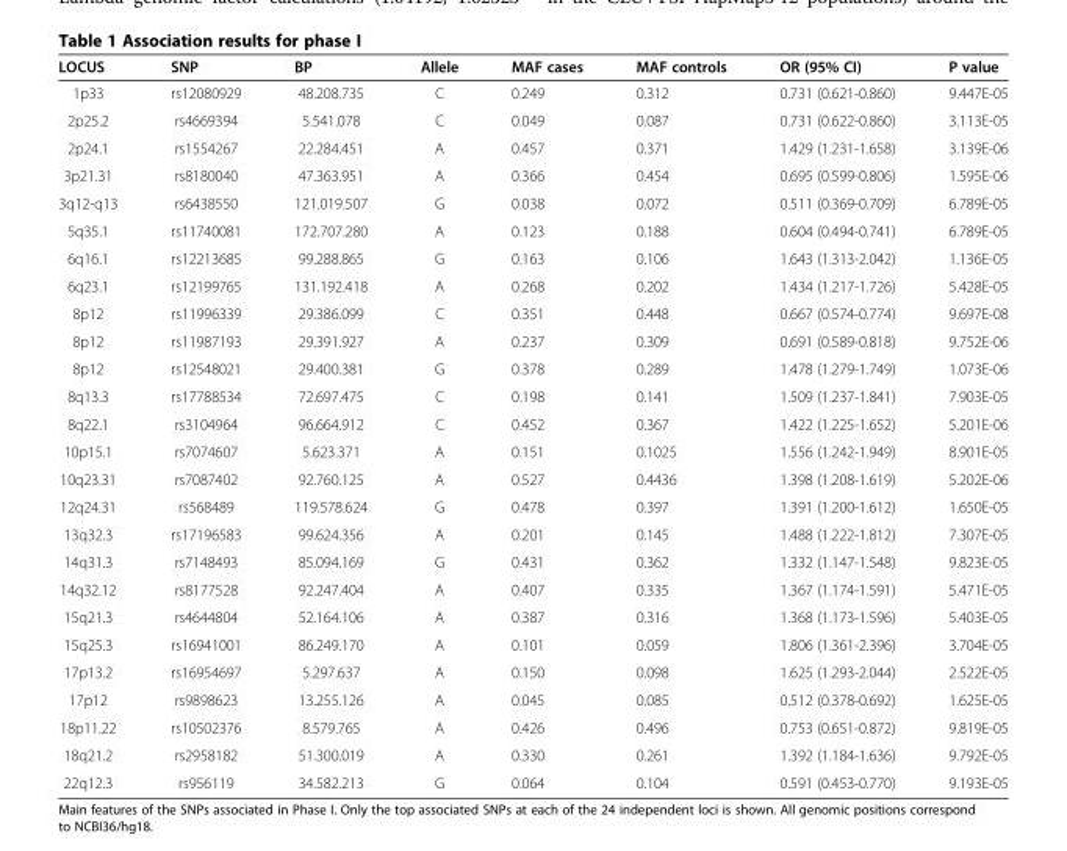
<table><thead><tr><td>LOCUS</td><td>SNP</td><td>BP</td><td>Allele</td><td>MAF cases</td><td>MAF controls</td><td>OR (95% CI)</td><td>P value</td></tr></thead><tbody><tr><td>1p33</td><td>rs12080929</td><td>48.208.735</td><td>C</td><td>0.249</td><td>0.312</td><td>0.731 (0.621-0.860)</td><td>9.447E-05</td></tr><tr><td>2p25.2</td><td>rs4669394</td><td>5.541.078</td><td>C</td><td>0.049</td><td>0.087</td><td>0.731 (0.622-0.860)</td><td>3.113E-05</td></tr><tr><td>2p24.1</td><td>rs1554267</td><td>22.284.451</td><td>A</td><td>0.457</td><td>0.371</td><td>1.429 (1.231-1.658)</td><td>3.139E-06</td></tr><tr><td>3p21.31</td><td>rs8180040</td><td>47.363.951</td><td>A</td><td>0.366</td><td>0.454</td><td>0.695 (0.599-0.806)</td><td>1.595E-06</td></tr><tr><td>3q12-q13</td><td>rs6438550</td><td>121.019.507</td><td>G</td><td>0.038</td><td>0.072</td><td>0.511 (0.369-0.709)</td><td>6.789E-05</td></tr><tr><td>5q35.1</td><td>rs11740081</td><td>172.707.280</td><td>A</td><td>0.123</td><td>0.188</td><td>0.604 (0.494-0.741)</td><td>6.789E-05</td></tr><tr><td>6q16.1</td><td>rs12213685</td><td>99.288.865</td><td>G</td><td>0.163</td><td>0.106</td><td>1.643 (1.313-2.042)</td><td>1.136E-05</td></tr><tr><td>6q23.1</td><td>rs12199765</td><td>131.192.418</td><td>A</td><td>0.268</td><td>0.202</td><td>1.434 (1.217-1.726)</td><td>5.428E-05</td></tr><tr><td>8p12</td><td>rs11996339</td><td>29.386.099</td><td>C</td><td>0.351</td><td>0.448</td><td>0.667 (0.574-0.774)</td><td>9.697E-08</td></tr><tr><td>8p12</td><td>rs11987193</td><td>29.391.927</td><td>A</td><td>0.237</td><td>0.309</td><td>0.691 (0.589-0.818)</td><td>9.752E-06</td></tr><tr><td>8p12</td><td>rs12548021</td><td>29.400.381</td><td>G</td><td>0.378</td><td>0.289</td><td>1.478 (1.279-1.749)</td><td>1.073E-06</td></tr><tr><td>8q13.3</td><td>rs17788534</td><td>72.697.475</td><td>C</td><td>0.198</td><td>0.141</td><td>1.509 (1.237-1.841)</td><td>7.903E-05</td></tr><tr><td>8q22.1</td><td>rs3104964</td><td>96.664.912</td><td>C</td><td>0.452</td><td>0.367</td><td>1.422 (1.225-1.652)</td><td>5.201E-06</td></tr><tr><td>10p15.1</td><td>rs7074607</td><td>5.623.371</td><td>A</td><td>0.151</td><td>0.1025</td><td>1.556 (1.242-1.949)</td><td>8.901E-05</td></tr><tr><td>10q23.31</td><td>rs7087402</td><td>92.760.125</td><td>A</td><td>0.527</td><td>0.4436</td><td>1.398 (1.208-1.619)</td><td>5.202E-06</td></tr><tr><td>12q24.31</td><td>rs568489</td><td>119.578.624</td><td>G</td><td>0.478</td><td>0.397</td><td>1.391 (1.200-1.612)</td><td>1.650E-05</td></tr><tr><td>13q32.3</td><td>rs17196583</td><td>99.624.356</td><td>A</td><td>0.201</td><td>0.145</td><td>1.488 (1.222-1.812)</td><td>7.307E-05</td></tr><tr><td>14q31.3</td><td>rs7148493</td><td>85.094.169</td><td>G</td><td>0.431</td><td>0.362</td><td>1.332 (1.147-1.548)</td><td>9.823E-05</td></tr><tr><td>14q32.12</td><td>rs8177528</td><td>92.247.404</td><td>A</td><td>0.407</td><td>0.335</td><td>1.367 (1.174-1.591)</td><td>5.471E-05</td></tr><tr><td>15q21.3</td><td>rs4644804</td><td>52.164.106</td><td>A</td><td>0.387</td><td>0.316</td><td>1.368 (1.173-1.596)</td><td>5.403E-05</td></tr><tr><td>15q25.3</td><td>rs16941001</td><td>86.249.170</td><td>A</td><td>0.101</td><td>0.059</td><td>1.806 (1.361-2.396)</td><td>3.704E-05</td></tr><tr><td>17p13.2</td><td>rs16954697</td><td>5.297.637</td><td>A</td><td>0.150</td><td>0.098</td><td>1.625 (1.293-2.044)</td><td>2.522E-05</td></tr><tr><td>17p12</td><td>rs9898623</td><td>13.255.126</td><td>A</td><td>0.045</td><td>0.085</td><td>0.512 (0.378-0.692)</td><td>1.625E-05</td></tr><tr><td>18p11.22</td><td>rs10502376</td><td>8.579.765</td><td>A</td><td>0.426</td><td>0.496</td><td>0.753 (0.651-0.872)</td><td>9.819E-05</td></tr><tr><td>18q21.2</td><td>rs2958182</td><td>51.300.019</td><td>A</td><td>0.330</td><td>0.261</td><td>1.392 (1.184-1.636)</td><td>9.792E-05</td></tr><tr><td>22q12.3</td><td>rs956119</td><td>34.582.213</td><td>G</td><td>0.064</td><td>0.104</td><td>0.591 (0.453-0.770)</td><td>9.193E-05</td></tr></tbody></table>